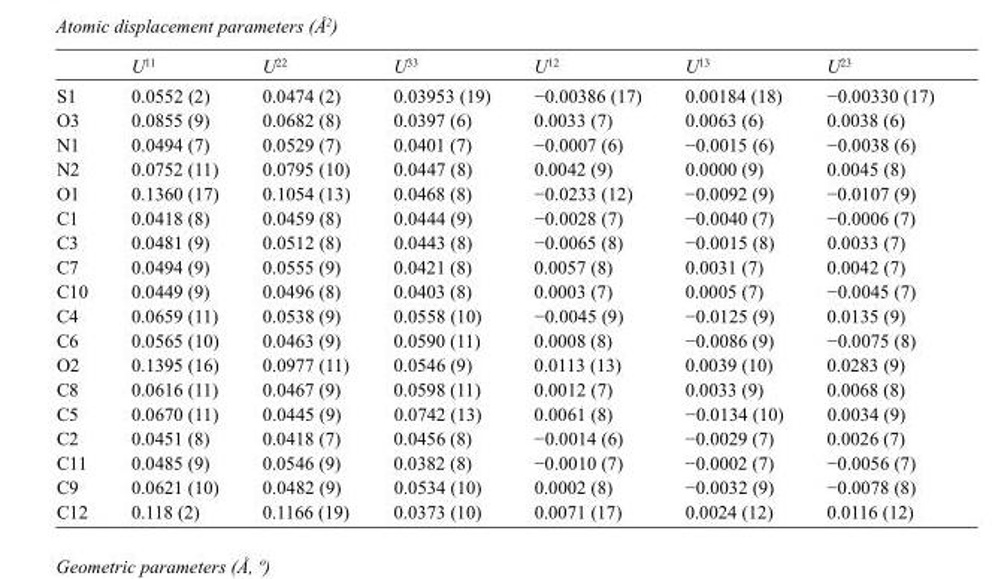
<table><thead><tr><td></td><td>U<sup>11</sup></td><td>U<sup>22</sup></td><td>U<sup>33</sup></td><td>U<sup>12</sup></td><td>U<sup>13</sup></td><td>U<sup>23</sup></td></tr></thead><tbody><tr><td>S1</td><td>0.0552 (2)</td><td>0.0474 (2)</td><td>0.03953 (19)</td><td>−0.00386 (17)</td><td>0.00184 (18)</td><td>−0.00330 (17)</td></tr><tr><td>O3</td><td>0.0855 (9)</td><td>0.0682 (8)</td><td>0.0397 (6)</td><td>0.0033 (7)</td><td>0.0063 (6)</td><td>0.0038 (6)</td></tr><tr><td>N1</td><td>0.0494 (7)</td><td>0.0529 (7)</td><td>0.0401 (7)</td><td>−0.0007 (6)</td><td>−0.0015 (6)</td><td>−0.0038 (6)</td></tr><tr><td>N2</td><td>0.0752 (11)</td><td>0.0795 (10)</td><td>0.0447 (8)</td><td>0.0042 (9)</td><td>0.0000 (9)</td><td>0.0045 (8)</td></tr><tr><td>O1</td><td>0.1360 (17)</td><td>0.1054 (13)</td><td>0.0468 (8)</td><td>−0.0233 (12)</td><td>−0.0092 (9)</td><td>−0.0107 (9)</td></tr><tr><td>C1</td><td>0.0418 (8)</td><td>0.0459 (8)</td><td>0.0444 (9)</td><td>−0.0028 (7)</td><td>−0.0040 (7)</td><td>−0.0006 (7)</td></tr><tr><td>C3</td><td>0.0481 (9)</td><td>0.0512 (8)</td><td>0.0443 (8)</td><td>−0.0065 (8)</td><td>−0.0015 (8)</td><td>0.0033 (7)</td></tr><tr><td>C7</td><td>0.0494 (9)</td><td>0.0555 (9)</td><td>0.0421 (8)</td><td>0.0057 (8)</td><td>0.0031 (7)</td><td>0.0042 (7)</td></tr><tr><td>C10</td><td>0.0449 (9)</td><td>0.0496 (8)</td><td>0.0403 (8)</td><td>0.0003 (7)</td><td>0.0005 (7)</td><td>−0.0045 (7)</td></tr><tr><td>C4</td><td>0.0659 (11)</td><td>0.0538 (9)</td><td>0.0558 (10)</td><td>−0.0045 (9)</td><td>−0.0125 (9)</td><td>0.0135 (9)</td></tr><tr><td>C6</td><td>0.0565 (10)</td><td>0.0463 (9)</td><td>0.0590 (11)</td><td>0.0008 (8)</td><td>−0.0086 (9)</td><td>−0.0075 (8)</td></tr><tr><td>O2</td><td>0.1395 (16)</td><td>0.0977 (11)</td><td>0.0546 (9)</td><td>0.0113 (13)</td><td>0.0039 (10)</td><td>0.0283 (9)</td></tr><tr><td>C8</td><td>0.0616 (11)</td><td>0.0467 (9)</td><td>0.0598 (11)</td><td>0.0012 (7)</td><td>0.0033 (9)</td><td>0.0068 (8)</td></tr><tr><td>C5</td><td>0.0670 (11)</td><td>0.0445 (9)</td><td>0.0742 (13)</td><td>0.0061 (8)</td><td>−0.0134 (10)</td><td>0.0034 (9)</td></tr><tr><td>C2</td><td>0.0451 (8)</td><td>0.0418 (7)</td><td>0.0456 (8)</td><td>−0.0014 (6)</td><td>−0.0029 (7)</td><td>0.0026 (7)</td></tr><tr><td>C11</td><td>0.0485 (9)</td><td>0.0546 (9)</td><td>0.0382 (8)</td><td>−0.0010 (7)</td><td>−0.0002 (7)</td><td>−0.0056 (7)</td></tr><tr><td>C9</td><td>0.0621 (10)</td><td>0.0482 (9)</td><td>0.0534 (10)</td><td>0.0002 (8)</td><td>−0.0032 (9)</td><td>−0.0078 (8)</td></tr><tr><td>C12</td><td>0.118 (2)</td><td>0.1166 (19)</td><td>0.0373 (10)</td><td>0.0071 (17)</td><td>0.0024 (12)</td><td>0.0116 (12)</td></tr></tbody></table>